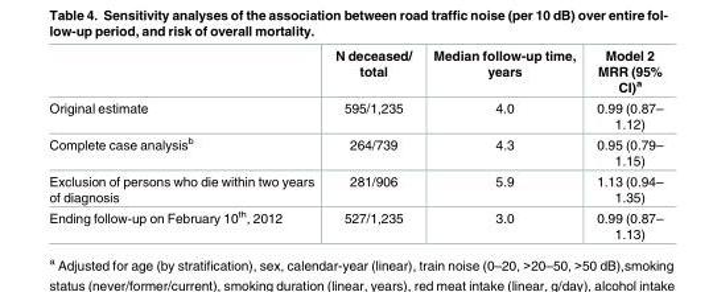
<table><thead><tr><td></td><td>N deceased/ total</td><td>Median follow-up time, years</td><td>Model 2 MRR (95% CI)<sup>a</sup></td></tr></thead><tbody><tr><td>Original estimate</td><td>595/1,235</td><td>4.0</td><td>0.99 (0.87– 1.12)</td></tr><tr><td>Complete case analysis<sup>b</sup></td><td>264/739</td><td>4.3</td><td>0.95 (0.79– 1.15)</td></tr><tr><td>Exclusion of persons who die within two years of diagnosis</td><td>281/906</td><td>5.9</td><td>1.13 (0.94– 1.35)</td></tr><tr><td>Ending follow-up on February 10<sup>th</sup>, 2012</td><td>527/1,235</td><td>3.0</td><td>0.99 (0.87– 1.13)</td></tr></tbody></table>